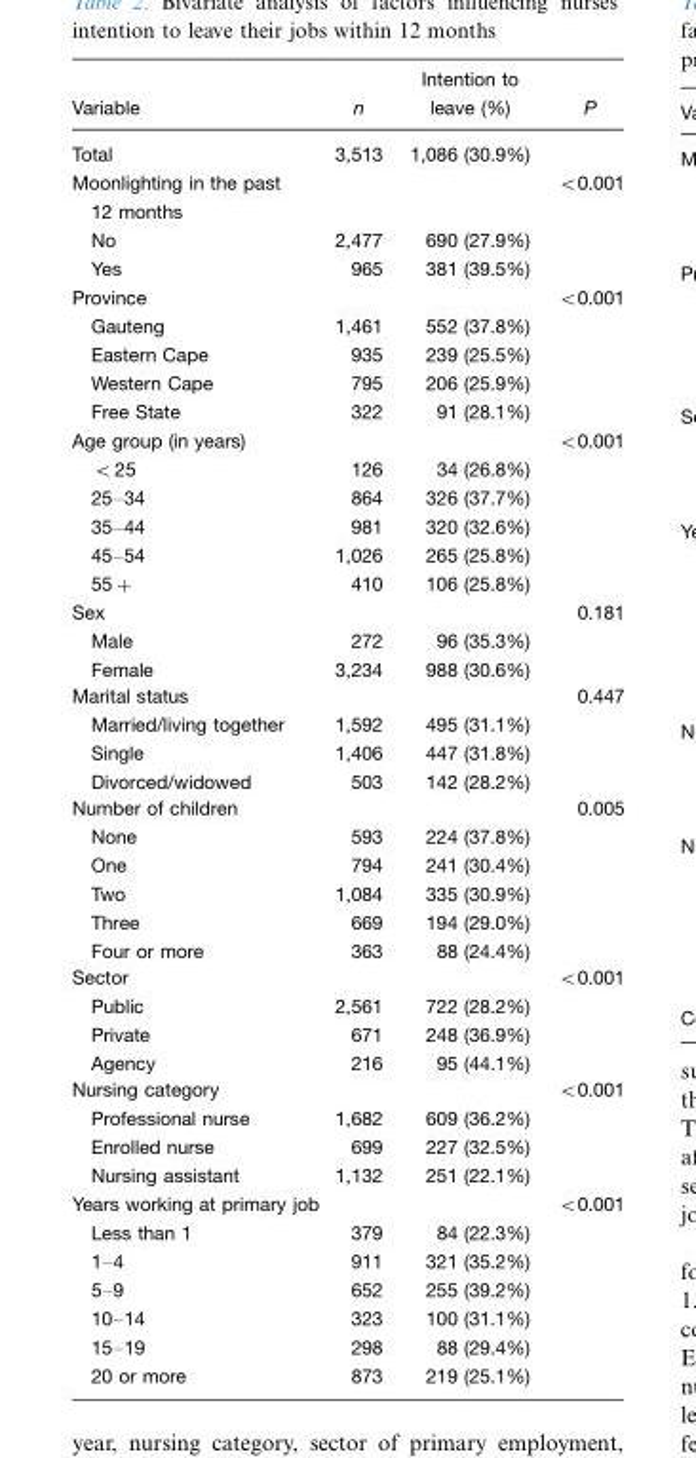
<table><thead><tr><td>Variable</td><td>n</td><td>Intention to leave (%)</td><td>P</td></tr></thead><tbody><tr><td>Total</td><td>3,513</td><td>1,086 (30.9%)</td><td></td></tr><tr><td>Moonlighting in the past 12 months</td><td></td><td></td><td>&lt;0.001</td></tr><tr><td>No</td><td>2,477</td><td>690 (27.9%)</td><td></td></tr><tr><td>Yes</td><td>965</td><td>381 (39.5%)</td><td></td></tr><tr><td>Province</td><td></td><td></td><td>&lt;0.001</td></tr><tr><td>Gauteng</td><td>1,461</td><td>552 (37.8%)</td><td></td></tr><tr><td>Eastern Cape</td><td>935</td><td>239 (25.5%)</td><td></td></tr><tr><td>Western Cape</td><td>795</td><td>206 (25.9%)</td><td></td></tr><tr><td>Free State</td><td>322</td><td>91 (28.1%)</td><td></td></tr><tr><td>Age group (in years)</td><td></td><td></td><td>&lt;0.001</td></tr><tr><td>&lt;25</td><td>126</td><td>34 (26.8%)</td><td></td></tr><tr><td>25–34</td><td>864</td><td>326 (37.7%)</td><td></td></tr><tr><td>35–44</td><td>981</td><td>320 (32.6%)</td><td></td></tr><tr><td>45–54</td><td>1,026</td><td>265 (25.8%)</td><td></td></tr><tr><td>55+</td><td>410</td><td>106 (25.8%)</td><td></td></tr><tr><td>Sex</td><td></td><td></td><td>0.181</td></tr><tr><td>Male</td><td>272</td><td>96 (35.3%)</td><td></td></tr><tr><td>Female</td><td>3,234</td><td>988 (30.6%)</td><td></td></tr><tr><td>Marital status</td><td></td><td></td><td>0.447</td></tr><tr><td>Married/living together</td><td>1,592</td><td>495 (31.1%)</td><td></td></tr><tr><td>Single</td><td>1,406</td><td>447 (31.8%)</td><td></td></tr><tr><td>Divorced/widowed</td><td>503</td><td>142 (28.2%)</td><td></td></tr><tr><td>Number of children</td><td></td><td></td><td>0.005</td></tr><tr><td>None</td><td>593</td><td>224 (37.8%)</td><td></td></tr><tr><td>One</td><td>794</td><td>241 (30.4%)</td><td></td></tr><tr><td>Two</td><td>1,084</td><td>335 (30.9%)</td><td></td></tr><tr><td>Three</td><td>669</td><td>194 (29.0%)</td><td></td></tr><tr><td>Four or more</td><td>363</td><td>88 (24.4%)</td><td></td></tr><tr><td>Sector</td><td></td><td></td><td>&lt;0.001</td></tr><tr><td>Public</td><td>2,561</td><td>722 (28.2%)</td><td></td></tr><tr><td>Private</td><td>671</td><td>248 (36.9%)</td><td></td></tr><tr><td>Agency</td><td>216</td><td>95 (44.1%)</td><td></td></tr><tr><td>Nursing category</td><td></td><td></td><td>&lt;0.001</td></tr><tr><td>Professional nurse</td><td>1,682</td><td>609 (36.2%)</td><td></td></tr><tr><td>Enrolled nurse</td><td>699</td><td>227 (32.5%)</td><td></td></tr><tr><td>Nursing assistant</td><td>1,132</td><td>251 (22.1%)</td><td></td></tr><tr><td>Years working at primary job</td><td></td><td></td><td>&lt;0.001</td></tr><tr><td>Less than 1</td><td>379</td><td>84 (22.3%)</td><td></td></tr><tr><td>1–4</td><td>911</td><td>321 (35.2%)</td><td></td></tr><tr><td>5–9</td><td>652</td><td>255 (39.2%)</td><td></td></tr><tr><td>10–14</td><td>323</td><td>100 (31.1%)</td><td></td></tr><tr><td>15–19</td><td>298</td><td>88 (29.4%)</td><td></td></tr><tr><td>20 or more</td><td>873</td><td>219 (25.1%)</td><td></td></tr></tbody></table>